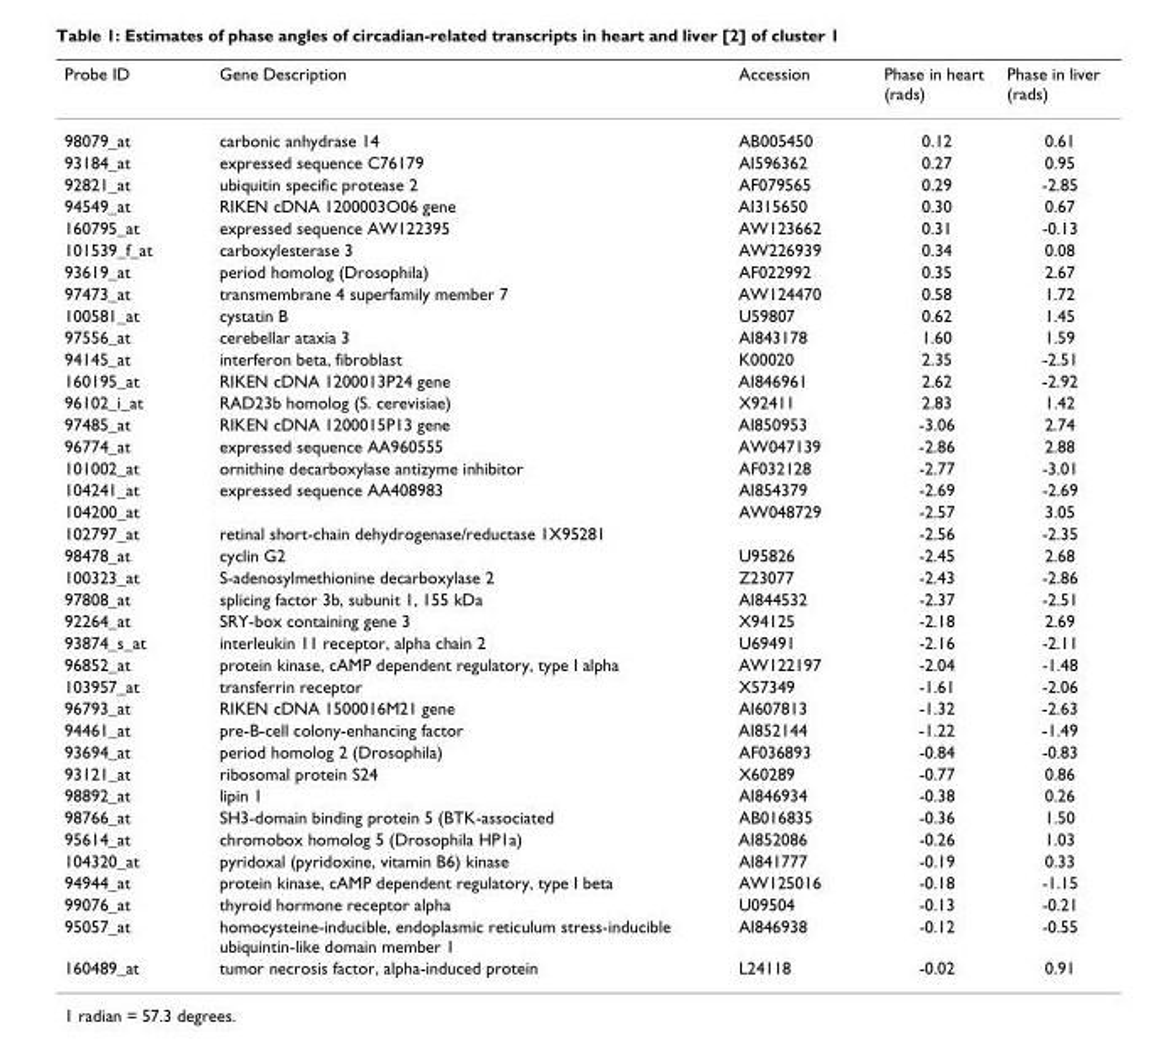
<table><thead><tr><td>Probe ID</td><td>Gene Description</td><td>Accession</td><td>Phase in heart (rads)</td><td>Phase in liver (rads)</td></tr></thead><tbody><tr><td>98079_at</td><td>carbonic anhydrase 14</td><td>AB005450</td><td>0.12</td><td>0.61</td></tr><tr><td>93184_at</td><td>expressed sequence C76179</td><td>AI596362</td><td>0.27</td><td>0.95</td></tr><tr><td>92821_at</td><td>ubiquitin specific protease 2</td><td>AF079565</td><td>0.29</td><td>-2.85</td></tr><tr><td>94549_at</td><td>RIKEN cDNA 1200003O06 gene</td><td>AI315650</td><td>0.30</td><td>0.67</td></tr><tr><td>160795_at</td><td>expressed sequence AW122395</td><td>AW123662</td><td>0.31</td><td>-0.13</td></tr><tr><td>101539_f_at</td><td>carboxylesterase 3</td><td>AW226939</td><td>0.34</td><td>0.08</td></tr><tr><td>93619_at</td><td>period homolog (Drosophila)</td><td>AF022992</td><td>0.35</td><td>2.67</td></tr><tr><td>97473_at</td><td>transmembrane 4 superfamily member 7</td><td>AW124470</td><td>0.58</td><td>1.72</td></tr><tr><td>100581_at</td><td>cystatin B</td><td>U59807</td><td>0.62</td><td>1.45</td></tr><tr><td>97556_at</td><td>cerebellar ataxia 3</td><td>AI843178</td><td>1.60</td><td>1.59</td></tr><tr><td>94145_at</td><td>interferon beta, fibroblast</td><td>K00020</td><td>2.35</td><td>-2.51</td></tr><tr><td>160195_at</td><td>RIKEN cDNA 1200013P24 gene</td><td>AI846961</td><td>2.62</td><td>-2.92</td></tr><tr><td>96102_i_at</td><td>RAD23b homolog (S. cerevisiae)</td><td>X92411</td><td>2.83</td><td>1.42</td></tr><tr><td>97485_at</td><td>RIKEN cDNA 1200015P13 gene</td><td>AI850953</td><td>-3.06</td><td>2.74</td></tr><tr><td>96774_at</td><td>expressed sequence AA960555</td><td>AW047139</td><td>-2.86</td><td>2.88</td></tr><tr><td>101002_at</td><td>ornithine decarboxylase antizyme inhibitor</td><td>AF032128</td><td>-2.77</td><td>-3.01</td></tr><tr><td>104241_at</td><td>expressed sequence AA408983</td><td>AI854379</td><td>-2.69</td><td>-2.69</td></tr><tr><td>104200_at</td><td></td><td>AW048729</td><td>-2.57</td><td>3.05</td></tr><tr><td>102797_at</td><td colspan="2">retinal short-chain dehydrogenase/reductase 1X95281</td><td>-2.56</td><td>-2.35</td></tr><tr><td>98478_at</td><td>cyclin G2</td><td>U95826</td><td>-2.45</td><td>2.68</td></tr><tr><td>100323_at</td><td>S-adenosylmethionine decarboxylase 2</td><td>Z23077</td><td>-2.43</td><td>-2.86</td></tr><tr><td>97808_at</td><td>splicing factor 3b, subunit 1, 155 kDa</td><td>AI844532</td><td>-2.37</td><td>-2.51</td></tr><tr><td>92264_at</td><td>SRY-box containing gene 3</td><td>X94125</td><td>-2.18</td><td>2.69</td></tr><tr><td>93874_s_at</td><td>interleukin 11 receptor, alpha chain 2</td><td>U69491</td><td>-2.16</td><td>-2.11</td></tr><tr><td>96852_at</td><td>protein kinase, cAMP dependent regulatory, type I alpha</td><td>AW122197</td><td>-2.04</td><td>-1.48</td></tr><tr><td>103957_at</td><td>transferrin receptor</td><td>X57349</td><td>-1.61</td><td>-2.06</td></tr><tr><td>96793_at</td><td>RIKEN cDNA 1500016M21 gene</td><td>AI607813</td><td>-1.32</td><td>-2.63</td></tr><tr><td>94461_at</td><td>pre-B-cell colony-enhancing factor</td><td>AI852144</td><td>-1.22</td><td>-1.49</td></tr><tr><td>93694_at</td><td>period homolog 2 (Drosophila)</td><td>AF036893</td><td>-0.84</td><td>-0.83</td></tr><tr><td>93121_at</td><td>ribosomal protein S24</td><td>X60289</td><td>-0.77</td><td>0.86</td></tr><tr><td>98892_at</td><td>lipin 1</td><td>AI846934</td><td>-0.38</td><td>0.26</td></tr><tr><td>98766_at</td><td>SH3-domain binding protein 5 (BTK-associated</td><td>AB016835</td><td>-0.36</td><td>1.50</td></tr><tr><td>95614_at</td><td>chromobox homolog 5 (Drosophila HP1a)</td><td>AI852086</td><td>-0.26</td><td>1.03</td></tr><tr><td>104320_at</td><td>pyridoxal (pyridoxine, vitamin B6) kinase</td><td>AI841777</td><td>-0.19</td><td>0.33</td></tr><tr><td>94944_at</td><td>protein kinase, cAMP dependent regulatory, type I beta</td><td>AW125016</td><td>-0.18</td><td>-1.15</td></tr><tr><td>99076_at</td><td>thyroid hormone receptor alpha</td><td>U09504</td><td>-0.13</td><td>-0.21</td></tr><tr><td>95057_at</td><td>homocysteine-inducible, endoplasmic reticulum stress-inducible ubiquintin-like domain member 1</td><td>AI846938</td><td>-0.12</td><td>-0.55</td></tr><tr><td>160489_at</td><td>tumor necrosis factor, alpha-induced protein</td><td>L24118</td><td>-0.02</td><td>0.91</td></tr></tbody></table>